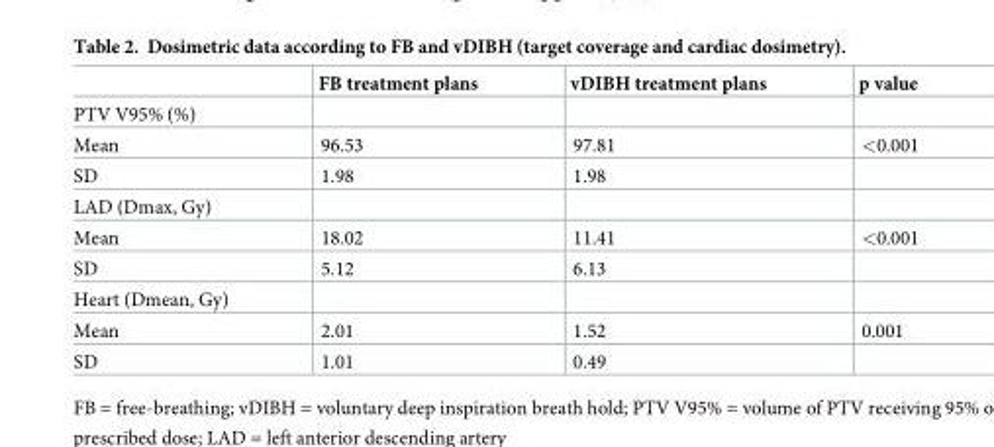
<table><thead><tr><td></td><td>FB treatment plans</td><td>vDIBH treatment plans</td><td>p value</td></tr></thead><tbody><tr><td colspan="4">PTV V95% (%)</td></tr><tr><td>Mean</td><td>96.53</td><td>97.81</td><td>&lt;0.001</td></tr><tr><td>SD</td><td>1.98</td><td>1.98</td><td></td></tr><tr><td colspan="4">LAD (Dmax, Gy)</td></tr><tr><td>Mean</td><td>18.02</td><td>11.41</td><td>&lt;0.001</td></tr><tr><td>SD</td><td>5.12</td><td>6.13</td><td></td></tr><tr><td colspan="4">Heart (Dmean, Gy)</td></tr><tr><td>Mean</td><td>2.01</td><td>1.52</td><td>0.001</td></tr><tr><td>SD</td><td>1.01</td><td>0.49</td><td></td></tr></tbody></table>